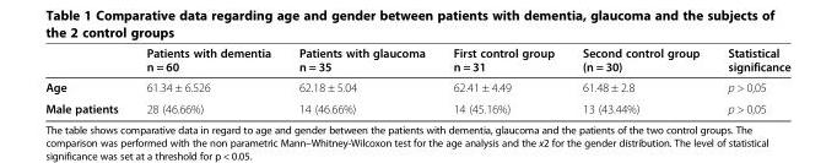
<table><thead><tr><td></td><td>Patients with dementia n = 60</td><td>Patients with glaucoma n = 35</td><td>First control group n = 31</td><td>Second control group (n = 30)</td><td>Statistical significance</td></tr></thead><tbody><tr><td>Age</td><td>61.34 ± 6.526</td><td>62.18 ± 5.04</td><td>62.41 ± 4.49</td><td>61.48 ± 2.8</td><td>p &gt; 0,05</td></tr><tr><td>Male patients</td><td>28 (46.66%)</td><td>14 (46.66%)</td><td>14 (45.16%)</td><td>13 (43.44%)</td><td>p &gt; 0,05</td></tr></tbody></table>